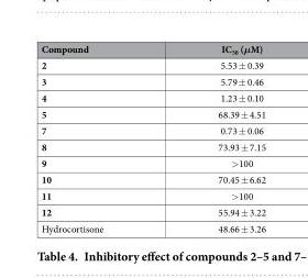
<table><thead><tr><td>Compound</td><td>IC<sub>50</sub> (μM)</td></tr></thead><tbody><tr><td>2</td><td>5.53 ± 0.39</td></tr><tr><td>3</td><td>5.79 ± 0.46</td></tr><tr><td>4</td><td>1.23 ± 0.10</td></tr><tr><td>5</td><td>68.39 ± 4.51</td></tr><tr><td>7</td><td>0.73 ± 0.06</td></tr><tr><td>8</td><td>73.93 ± 7.15</td></tr><tr><td>9</td><td>&gt;100</td></tr><tr><td>10</td><td>70.45 ± 6.62</td></tr><tr><td>11</td><td>&gt;100</td></tr><tr><td>12</td><td>55.94 ± 3.22</td></tr><tr><td>Hydrocortisone</td><td>48.66 ± 3.26</td></tr></tbody></table>